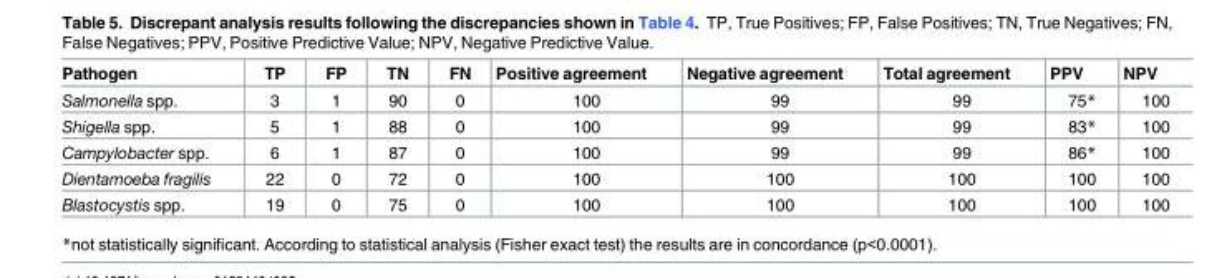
<table><thead><tr><td>Pathogen</td><td>TP</td><td>FP</td><td>TN</td><td>FN</td><td>Positive agreement</td><td>Negative agreement</td><td>Total agreement</td><td>PPV</td><td>NPV</td></tr></thead><tbody><tr><td>Salmonella spp.</td><td>3</td><td>1</td><td>90</td><td>0</td><td>100</td><td>99</td><td>99</td><td>75*</td><td>100</td></tr><tr><td>Shigella spp.</td><td>5</td><td>1</td><td>88</td><td>0</td><td>100</td><td>99</td><td>99</td><td>83*</td><td>100</td></tr><tr><td>Campylobacter spp.</td><td>6</td><td>1</td><td>87</td><td>0</td><td>100</td><td>99</td><td>99</td><td>86*</td><td>100</td></tr><tr><td>Dientamoeba fragilis</td><td>22</td><td>0</td><td>72</td><td>0</td><td>100</td><td>100</td><td>100</td><td>100</td><td>100</td></tr><tr><td>Blastocystis spp.</td><td>19</td><td>0</td><td>75</td><td>0</td><td>100</td><td>100</td><td>100</td><td>100</td><td>100</td></tr></tbody></table>